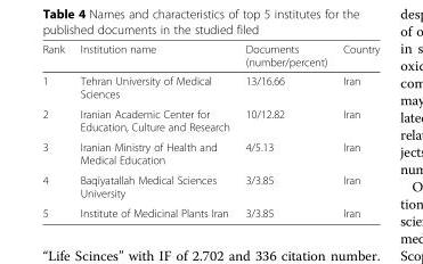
<table><thead><tr><td>Rank</td><td>Institution name</td><td>Documents (number/percent)</td><td>Country</td></tr></thead><tbody><tr><td>1</td><td>Tehran University of Medical Sciences</td><td>13/16.66</td><td>Iran</td></tr><tr><td>2</td><td>Iranian Academic Center for Education, Culture and Research</td><td>10/12.82</td><td>Iran</td></tr><tr><td>3</td><td>Iranian Ministry of Health and Medical Education</td><td>4/5.13</td><td>Iran</td></tr><tr><td>4</td><td>Baqiyatallah Medical Sciences University</td><td>3/3.85</td><td>Iran</td></tr><tr><td>5</td><td>Institute of Medicinal Plants Iran</td><td>3/3.85</td><td>Iran</td></tr></tbody></table>